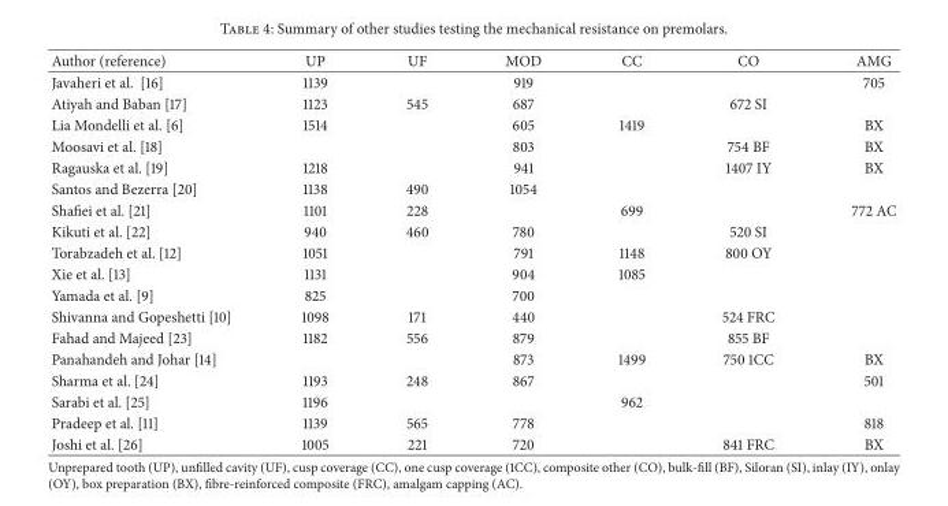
<table><thead><tr><td>Author (reference)</td><td>UP</td><td>UF</td><td>MOD</td><td>CC</td><td>CO</td><td>AMG</td></tr></thead><tbody><tr><td>Javaheri et al. [16]</td><td>1139</td><td></td><td>919</td><td></td><td></td><td>705</td></tr><tr><td>Atiyah and Baban [17]</td><td>1123</td><td>545</td><td>687</td><td></td><td>672 SI</td><td></td></tr><tr><td>Lia Mondelli et al. [6]</td><td>1514</td><td></td><td>605</td><td>1419</td><td></td><td>BX</td></tr><tr><td>Moosavi et al. [18]</td><td></td><td></td><td>803</td><td></td><td>754 BF</td><td>BX</td></tr><tr><td>Ragauska et al. [19]</td><td>1218</td><td></td><td>941</td><td></td><td>1407 IY</td><td>BX</td></tr><tr><td>Santos and Bezerra [20]</td><td>1138</td><td>490</td><td>1054</td><td></td><td></td><td></td></tr><tr><td>Shafiei et al. [21]</td><td>1101</td><td>228</td><td></td><td>699</td><td></td><td>772 AC</td></tr><tr><td>Kikuti et al. [22]</td><td>940</td><td>460</td><td>780</td><td></td><td>520 SI</td><td></td></tr><tr><td>Torabzadeh et al. [12]</td><td>1051</td><td></td><td>791</td><td>1148</td><td>800 OY</td><td></td></tr><tr><td>Xie et al. [13]</td><td>1131</td><td></td><td>904</td><td>1085</td><td></td><td></td></tr><tr><td>Yamada et al. [9]</td><td>825</td><td></td><td>700</td><td></td><td></td><td></td></tr><tr><td>Shivanna and Gopeshetti [10]</td><td>1098</td><td>171</td><td>440</td><td></td><td>524 FRC</td><td></td></tr><tr><td>Fahad and Majeed [23]</td><td>1182</td><td>556</td><td>879</td><td></td><td>855 BF</td><td></td></tr><tr><td>Panahandeh and Johar [14]</td><td></td><td></td><td>873</td><td>1499</td><td>750 1CC</td><td>BX</td></tr><tr><td>Sharma et al. [24]</td><td>1193</td><td>248</td><td>867</td><td></td><td></td><td>501</td></tr><tr><td>Sarabi et al. [25]</td><td>1196</td><td></td><td></td><td>962</td><td></td><td></td></tr><tr><td>Pradeep et al. [11]</td><td>1139</td><td>565</td><td>778</td><td></td><td></td><td>818</td></tr><tr><td>Joshi et al. [26]</td><td>1005</td><td>221</td><td>720</td><td></td><td>841 FRC</td><td>BX</td></tr></tbody></table>